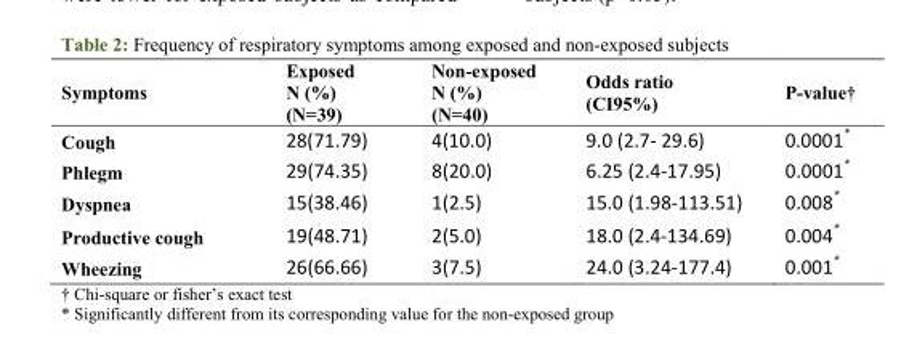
<table><thead><tr><td>Symptoms</td><td>Exposed N (%) (N=39)</td><td>Non-exposed N (%) (N=40)</td><td>Odds ratio (CI95%)</td><td>P-value</td></tr></thead><tbody><tr><td>Cough</td><td>28(71.79)</td><td>4(10.0)</td><td>9.0 (2.7- 29.6)</td><td>0.0001*</td></tr><tr><td>Phlegm</td><td>29(74.35)</td><td>8(20.0)</td><td>6.25 (2.4-17.95)</td><td>0.0001*</td></tr><tr><td>Dyspnea</td><td>15(38.46)</td><td>1(2.5)</td><td>15.0 (1.98-113.51)</td><td>0.008*</td></tr><tr><td>Productive cough</td><td>19(48.71)</td><td>2(5.0)</td><td>18.0 (2.4-134.69)</td><td>0.004*</td></tr><tr><td>Wheezing</td><td>26(66.66)</td><td>3(7.5)</td><td>24.0 (3.24-177.4)</td><td>0.001*</td></tr></tbody></table>